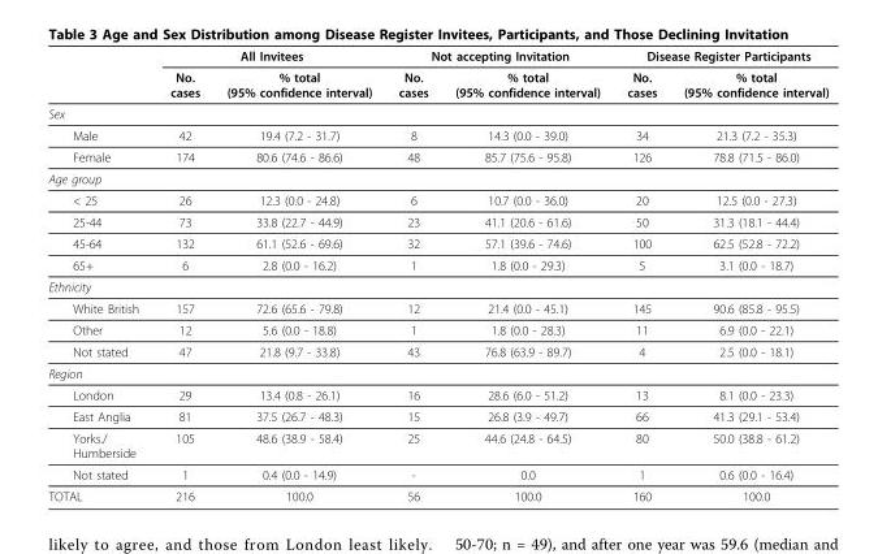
<table><thead><tr><td rowspan="2"></td><td colspan="2">All Invitees</td><td colspan="2">Not accepting Invitation</td><td colspan="2">Disease Register Participants</td></tr><tr><td>No. cases</td><td>% total (95% confidence interval)</td><td>No. cases</td><td>% total (95% confidence interval)</td><td>No. cases</td><td>% total (95% confidence interval)</td></tr></thead><tbody><tr><td colspan="7">Sex</td></tr><tr><td>Male</td><td>42</td><td>19.4 (7.2 - 31.7)</td><td>8</td><td>14.3 (0.0 - 39.0)</td><td>34</td><td>21.3 (7.2 - 35.3)</td></tr><tr><td>Female</td><td>174</td><td>80.6 (74.6 - 86.6)</td><td>48</td><td>85.7 (75.6 - 95.8)</td><td>126</td><td>78.8 (71.5 - 86.0)</td></tr><tr><td colspan="7">Age group</td></tr><tr><td>&lt; 25</td><td>26</td><td>12.3 (0.0 - 24.8)</td><td>6</td><td>10.7 (0.0 - 36.0)</td><td>20</td><td>12.5 (0.0 - 27.3)</td></tr><tr><td>25-44</td><td>73</td><td>33.8 (22.7 - 44.9)</td><td>23</td><td>41.1 (20.6 - 61.6)</td><td>50</td><td>31.3 (18.1 - 44.4)</td></tr><tr><td>45-64</td><td>132</td><td>61.1 (52.6 - 69.6)</td><td>32</td><td>57.1 (39.6 - 74.6)</td><td>100</td><td>62.5 (52.8 - 72.2)</td></tr><tr><td>65+</td><td>6</td><td>2.8 (0.0 - 16.2)</td><td>1</td><td>1.8 (0.0 - 29.3)</td><td>5</td><td>3.1 (0.0 - 18.7)</td></tr><tr><td colspan="7">Ethnicity</td></tr><tr><td>White British</td><td>157</td><td>72.6 (65.6 - 79.8)</td><td>12</td><td>21.4 (0.0 - 45.1)</td><td>145</td><td>90.6 (85.8 - 95.5)</td></tr><tr><td>Other</td><td>12</td><td>5.6 (0.0 - 18.8)</td><td>1</td><td>1.8 (0.0 - 28.3)</td><td>11</td><td>6.9 (0.0 - 22.1)</td></tr><tr><td>Not stated</td><td>47</td><td>21.8 (9.7 - 33.8)</td><td>43</td><td>76.8 (63.9 - 89.7)</td><td>4</td><td>2.5 (0.0 - 18.1)</td></tr><tr><td colspan="7">Region</td></tr><tr><td>London</td><td>29</td><td>13.4 (0.8 - 26.1)</td><td>16</td><td>28.6 (6.0 - 51.2)</td><td>13</td><td>8.1 (0.0 - 23.3)</td></tr><tr><td>East Anglia</td><td>81</td><td>37.5 (26.7 - 48.3)</td><td>15</td><td>26.8 (3.9 - 49.7)</td><td>66</td><td>41.3 (29.1 - 53.4)</td></tr><tr><td>Yorks./ Humberside</td><td>105</td><td>48.6 (38.9 - 58.4)</td><td>25</td><td>44.6 (24.8 - 64.5)</td><td>80</td><td>50.0 (38.8 - 61.2)</td></tr><tr><td>Not stated</td><td>1</td><td>0.4 (0.0 - 14.9)</td><td>-</td><td>0.0</td><td>1</td><td>0.6 (0.0 - 16.4)</td></tr><tr><td>TOTAL</td><td>216</td><td>100.0</td><td>56</td><td>100.0</td><td>160</td><td>100.0</td></tr></tbody></table>